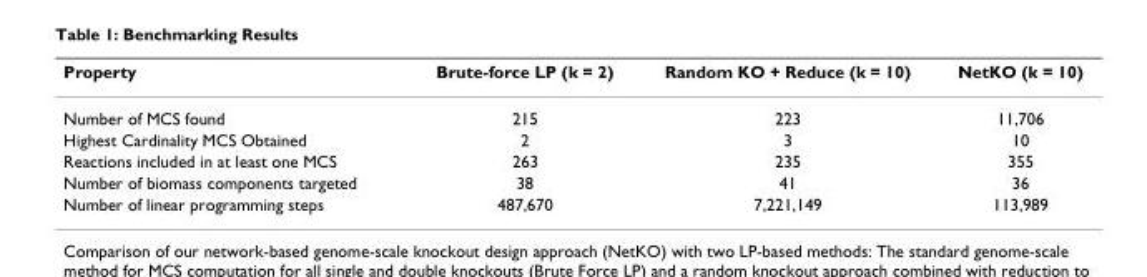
<table><thead><tr><td>Property</td><td>Brute-force LP (k = 2)</td><td>Random KO + Reduce (k = 10)</td><td>NetKO (k = 10)</td></tr></thead><tbody><tr><td>Number of MCS found</td><td>215</td><td>223</td><td>11,706</td></tr><tr><td>Highest Cardinality MCS Obtained</td><td>2</td><td>3</td><td>10</td></tr><tr><td>Reactions included in at least one MCS</td><td>263</td><td>235</td><td>355</td></tr><tr><td>Number of biomass components targeted</td><td>38</td><td>41</td><td>36</td></tr><tr><td>Number of linear programming steps</td><td>487,670</td><td>7,221,149</td><td>113,989</td></tr></tbody></table>